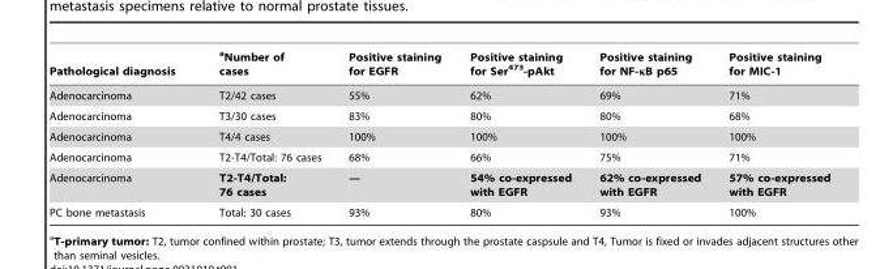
<table><thead><tr><td>Pathological diagnosis</td><td>aNumber of cases</td><td>Positive staining for EGFR</td><td>Positive staining for Ser<sup>473</sup>-pAkt</td><td>Positive staining for NF-κB p65</td><td>Positive staining for MIC-1</td></tr></thead><tbody><tr><td>Adenocarcinoma</td><td>T2/42 cases</td><td>55%</td><td>62%</td><td>69%</td><td>71%</td></tr><tr><td>Adenocarcinoma</td><td>T3/30 cases</td><td>83%</td><td>80%</td><td>80%</td><td>68%</td></tr><tr><td>Adenocarcinoma</td><td>T4/4 cases</td><td>100%</td><td>100%</td><td>100%</td><td>100%</td></tr><tr><td>Adenocarcinoma</td><td>T2-T4/Total: 76 cases</td><td>68%</td><td>66%</td><td>75%</td><td>71%</td></tr><tr><td>Adenocarcinoma</td><td>T2-T4/Total: 76 cases</td><td>—</td><td>54% co-expressed with EGFR</td><td>62% co-expressed with EGFR</td><td>57% co-expressed with EGFR</td></tr><tr><td>PC bone metastasis</td><td>Total: 30 cases</td><td>93%</td><td>80%</td><td>93%</td><td>100%</td></tr></tbody></table>